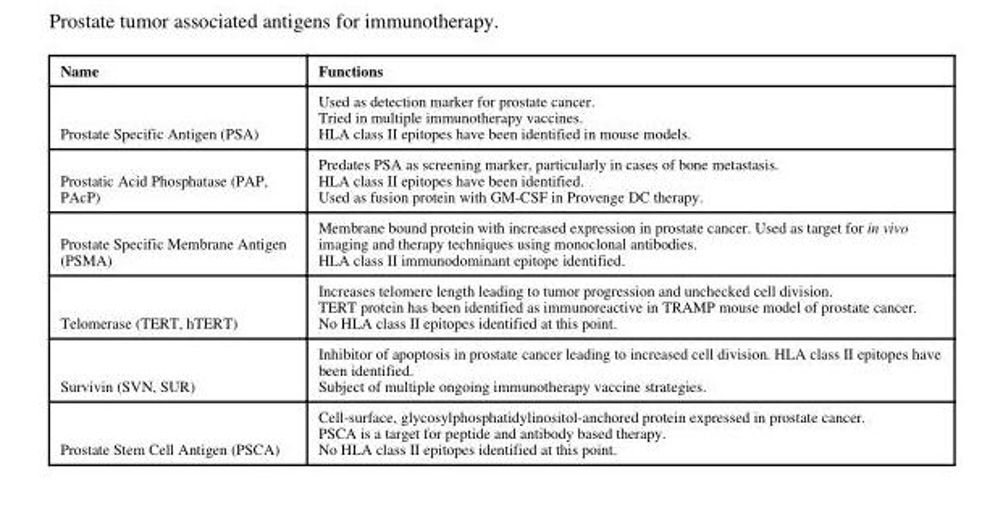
<table><thead><tr><td>Name</td><td>Functions</td></tr></thead><tbody><tr><td>Prostate Specific Antigen (PSA)</td><td>Used as detection marker for prostate cancer. Tried in multiple immunotherapy vaccines. HLA class II epitopes have been identified in mouse models.</td></tr><tr><td>Prostatic Acid Phosphatase (PAP, PAcP)</td><td>Predates PSA as screening marker, particularly in cases of bone metastasis. HLA class II epitopes have been identified. Used as fusion protein with GM-CSF in Provenge DC therapy.</td></tr><tr><td>Prostate Specific Membrane Antigen (PSMA)</td><td>Membrane bound protein with increased expression in prostate cancer. Used as target for in vivo imaging and therapy techniques using monoclonal antibodies. HLA class II immunodominant epitope identified.</td></tr><tr><td>Telomerase (TERT, hTERT)</td><td>Increases telomere length leading to tumor progression and unchecked cell division. TERT protein has been identified as immunoreactive in TRAMP mouse model of prostate cancer. No HLA class II epitopes identified at this point.</td></tr><tr><td>Survivin (SVN, SUR)</td><td>Inhibitor of apoptosis in prostate cancer leading to increased cell division. HLA class II epitopes have been identified. Subject of multiple ongoing immunotherapy vaccine strategies.</td></tr><tr><td>Prostate Stem Cell Antigen (PSCA)</td><td>Cell-surface, glycosylphosphatidylinositol-anchored protein expressed in prostate cancer. PSCA is a target for peptide and antibody based therapy. No HLA class II epitopes identified at this point.</td></tr></tbody></table>